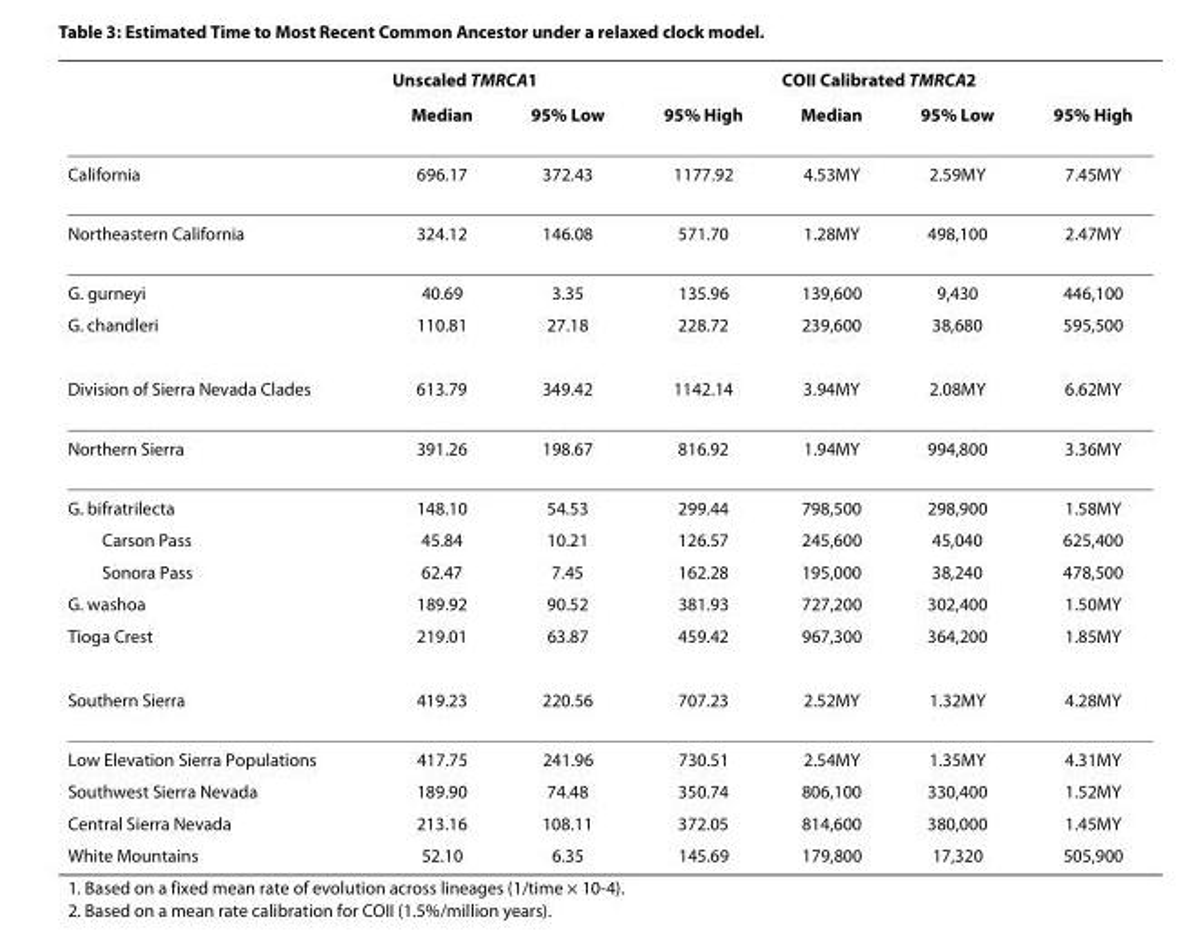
<table><thead><tr><td rowspan="2"></td><td colspan="3">Unscaled T<sub>MRCA</sub><sup>1</sup></td><td colspan="3">COII Calibrated T<sub>MRCA</sub><sup>2</sup></td></tr><tr><td>Median</td><td>95% Low</td><td>95% High</td><td>Median</td><td>95% Low</td><td>95% High</td></tr></thead><tbody><tr><td>California</td><td>696.17</td><td>372.43</td><td>1177.92</td><td>4.53MY</td><td>2.59MY</td><td>7.45MY</td></tr><tr><td>Northeastern California</td><td>324.12</td><td>146.08</td><td>571.70</td><td>1.28MY</td><td>498,100</td><td>2.47MY</td></tr><tr><td>G. gurneyi</td><td>40.69</td><td>3.35</td><td>135.96</td><td>139,600</td><td>9,430</td><td>446,100</td></tr><tr><td>G. chandleri</td><td>110.81</td><td>27.18</td><td>228.72</td><td>239,600</td><td>38,680</td><td>595,500</td></tr><tr><td>Division of Sierra Nevada Clades</td><td>613.79</td><td>349.42</td><td>1142.14</td><td>3.94MY</td><td>2.08MY</td><td>6.62MY</td></tr><tr><td>Northern Sierra</td><td>391.26</td><td>198.67</td><td>816.92</td><td>1.94MY</td><td>994,800</td><td>3.36MY</td></tr><tr><td>G. bifratrilecta</td><td>148.10</td><td>54.53</td><td>299.44</td><td>798,500</td><td>298,900</td><td>1.58MY</td></tr><tr><td>Carson Pass</td><td>45.84</td><td>10.21</td><td>126.57</td><td>245,600</td><td>45,040</td><td>625,400</td></tr><tr><td>Sonora Pass</td><td>62.47</td><td>7.45</td><td>162.28</td><td>195,000</td><td>38,240</td><td>478,500</td></tr><tr><td>G. washoa</td><td>189.92</td><td>90.52</td><td>381.93</td><td>727,200</td><td>302,400</td><td>1.50MY</td></tr><tr><td>Tioga Crest</td><td>219.01</td><td>63.87</td><td>459.42</td><td>967,300</td><td>364,200</td><td>1.85MY</td></tr><tr><td>Southern Sierra</td><td>419.23</td><td>220.56</td><td>707.23</td><td>2.52MY</td><td>1.32MY</td><td>4.28MY</td></tr><tr><td>Low Elevation Sierra Populations</td><td>417.75</td><td>241.96</td><td>730.51</td><td>2.54MY</td><td>1.35MY</td><td>4.31MY</td></tr><tr><td>Southwest Sierra Nevada</td><td>189.90</td><td>74.48</td><td>350.74</td><td>806,100</td><td>330,400</td><td>1.52MY</td></tr><tr><td>Central Sierra Nevada</td><td>213.16</td><td>108.11</td><td>372.05</td><td>814,600</td><td>380,000</td><td>1.45MY</td></tr><tr><td>White Mountains</td><td>52.10</td><td>6.35</td><td>145.69</td><td>179,800</td><td>17,320</td><td>505,900</td></tr></tbody></table>